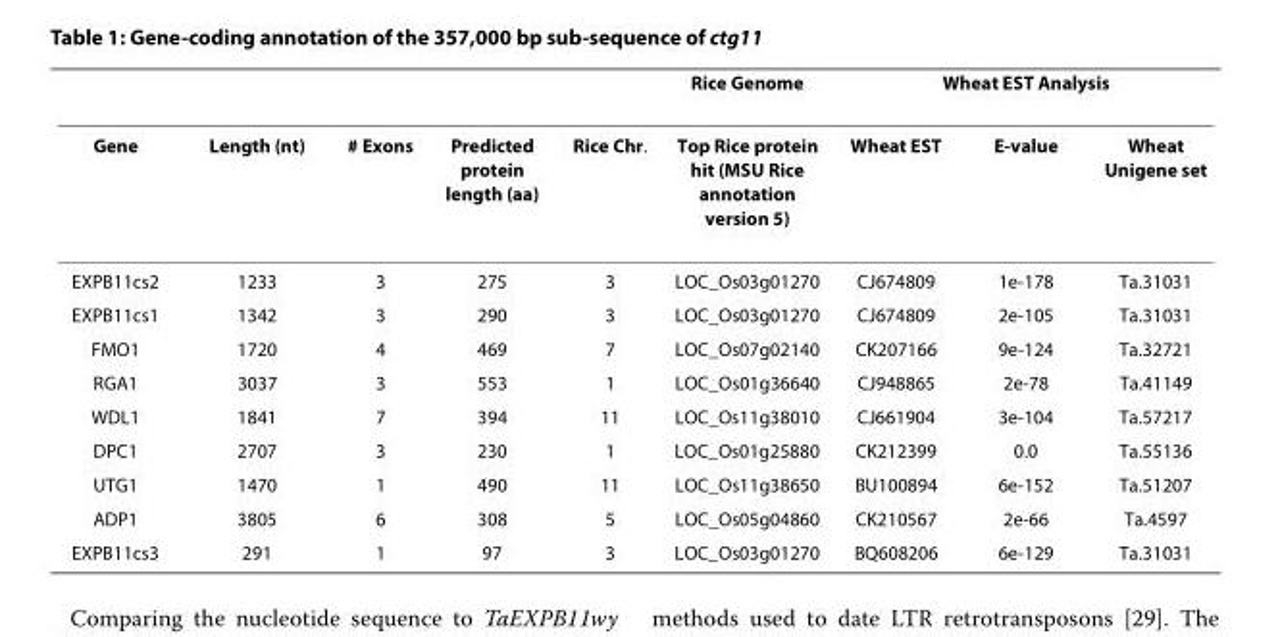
<table><thead><tr><td rowspan="2">Gene</td><td rowspan="2">Length (nt)</td><td rowspan="2"># Exons</td><td rowspan="2">Predicted protein length (aa)</td><td rowspan="2">Rice Chr.</td><td rowspan="2">Rice Genome Top Rice protein hit (MSU Rice annotation version 5)</td><td colspan="3">Wheat EST Analysis</td></tr><tr><td>Wheat EST</td><td>E-value</td><td>Wheat Unigene set</td></tr></thead><tbody><tr><td>EXPB11cs2</td><td>1233</td><td>3</td><td>275</td><td>3</td><td>LOC_Os03g01270</td><td>CJ674809</td><td>1e-178</td><td>Ta.31031</td></tr><tr><td>EXPB11cs1</td><td>1342</td><td>3</td><td>290</td><td>3</td><td>LOC_Os03g01270</td><td>CJ674809</td><td>2e-105</td><td>Ta.31031</td></tr><tr><td>FMO1</td><td>1720</td><td>4</td><td>469</td><td>7</td><td>LOC_Os07g02140</td><td>CK207166</td><td>9e-124</td><td>Ta.32721</td></tr><tr><td>RGA1</td><td>3037</td><td>3</td><td>553</td><td>1</td><td>LOC_Os01g36640</td><td>CJ948865</td><td>2e-78</td><td>Ta.41149</td></tr><tr><td>WDL1</td><td>1841</td><td>7</td><td>394</td><td>11</td><td>LOC_Os11g38010</td><td>CJ661904</td><td>3e-104</td><td>Ta.57217</td></tr><tr><td>DPC1</td><td>2707</td><td>3</td><td>230</td><td>1</td><td>LOC_Os01g25880</td><td>CK212399</td><td>0.0</td><td>Ta.55136</td></tr><tr><td>UTG1</td><td>1470</td><td>1</td><td>490</td><td>11</td><td>LOC_Os11g38650</td><td>BU100894</td><td>6e-152</td><td>Ta.51207</td></tr><tr><td>ADP1</td><td>3805</td><td>6</td><td>308</td><td>5</td><td>LOC_Os05g04860</td><td>CK210567</td><td>2e-66</td><td>Ta.4597</td></tr><tr><td>EXPB11cs3</td><td>291</td><td>1</td><td>97</td><td>3</td><td>LOC_Os03g01270</td><td>BQ608206</td><td>6e-129</td><td>Ta.31031</td></tr></tbody></table>